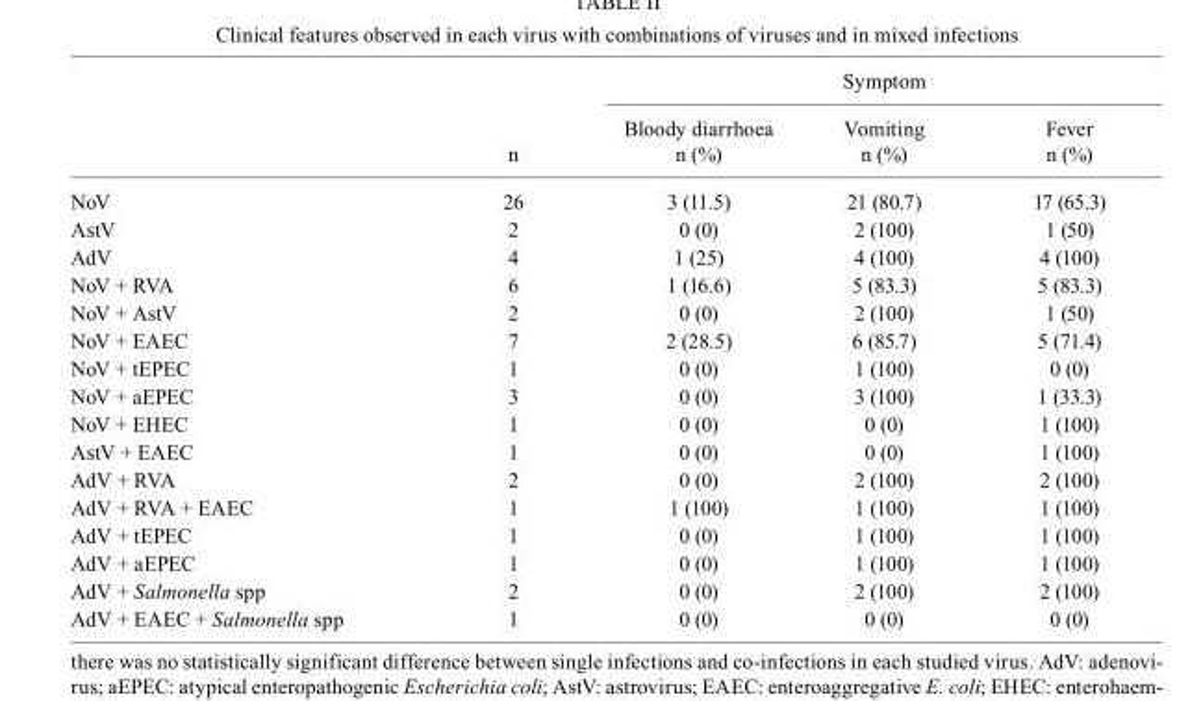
<table><thead><tr><td rowspan="2"></td><td rowspan="2">n</td><td colspan="3">Symptom</td></tr><tr><td>Bloody diarrhoea n (%)</td><td>Vomiting n (%)</td><td>Fever n (%)</td></tr></thead><tbody><tr><td>NoV</td><td>26</td><td>3 (11.5)</td><td>21 (80.7)</td><td>17 (65.3)</td></tr><tr><td>AstV</td><td>2</td><td>0 (0)</td><td>2 (100)</td><td>1 (50)</td></tr><tr><td>AdV</td><td>4</td><td>1 (25)</td><td>4 (100)</td><td>4 (100)</td></tr><tr><td>NoV + RVA</td><td>6</td><td>1 (16.6)</td><td>5 (83.3)</td><td>5 (83.3)</td></tr><tr><td>NoV + AstV</td><td>2</td><td>0 (0)</td><td>2 (100)</td><td>1 (50)</td></tr><tr><td>NoV + EAEC</td><td>7</td><td>2 (28.5)</td><td>6 (85.7)</td><td>5 (71.4)</td></tr><tr><td>NoV + tEPEC</td><td>1</td><td>0 (0)</td><td>1 (100)</td><td>0 (0)</td></tr><tr><td>NoV + aEPEC</td><td>3</td><td>0 (0)</td><td>3 (100)</td><td>1 (33.3)</td></tr><tr><td>NoV + EHEC</td><td>1</td><td>0 (0)</td><td>0 (0)</td><td>1 (100)</td></tr><tr><td>AstV + EAEC</td><td>1</td><td>0 (0)</td><td>0 (0)</td><td>1 (100)</td></tr><tr><td>AdV + RVA</td><td>2</td><td>0 (0)</td><td>2 (100)</td><td>2 (100)</td></tr><tr><td>AdV + RVA + EAEC</td><td>1</td><td>1 (100)</td><td>1 (100)</td><td>1 (100)</td></tr><tr><td>AdV + tEPEC</td><td>1</td><td>0 (0)</td><td>1 (100)</td><td>1 (100)</td></tr><tr><td>AdV + aEPEC</td><td>1</td><td>0 (0)</td><td>1 (100)</td><td>1 (100)</td></tr><tr><td>AdV + Salmonella spp</td><td>2</td><td>0 (0)</td><td>2 (100)</td><td>2 (100)</td></tr><tr><td>AdV + EAEC + Salmonella spp</td><td>1</td><td>0 (0)</td><td>0 (0)</td><td>0 (0)</td></tr></tbody></table>